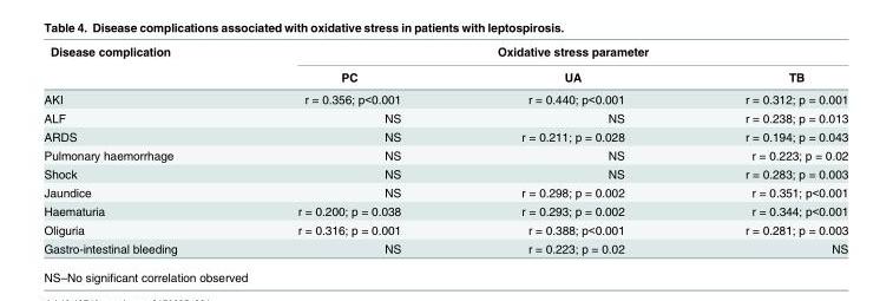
<table><thead><tr><td rowspan="2">Disease complication</td><td colspan="3">Oxidative stress parameter</td></tr><tr><td>PC</td><td>UA</td><td>TB</td></tr></thead><tbody><tr><td>AKI</td><td>r = 0.356; p&lt;0.001</td><td>r = 0.440; p&lt;0.001</td><td>r = 0.312; p = 0.001</td></tr><tr><td>ALF</td><td>NS</td><td>NS</td><td>r = 0.238; p = 0.013</td></tr><tr><td>ARDS</td><td>NS</td><td>r = 0.211; p = 0.028</td><td>r = 0.194; p = 0.043</td></tr><tr><td>Pulmonary haemorrhage</td><td>NS</td><td>NS</td><td>r = 0.223; p = 0.02</td></tr><tr><td>Shock</td><td>NS</td><td>NS</td><td>r = 0.283; p = 0.003</td></tr><tr><td>Jaundice</td><td>NS</td><td>r = 0.298; p = 0.002</td><td>r = 0.351; p&lt;0.001</td></tr><tr><td>Haematuria</td><td>r = 0.200; p = 0.038</td><td>r = 0.293; p = 0.002</td><td>r = 0.344; p&lt;0.001</td></tr><tr><td>Oliguria</td><td>r = 0.316; p = 0.001</td><td>r = 0.388; p&lt;0.001</td><td>r = 0.281; p = 0.003</td></tr><tr><td>Gastro-intestinal bleeding</td><td>NS</td><td>r = 0.223; p = 0.02</td><td>NS</td></tr></tbody></table>